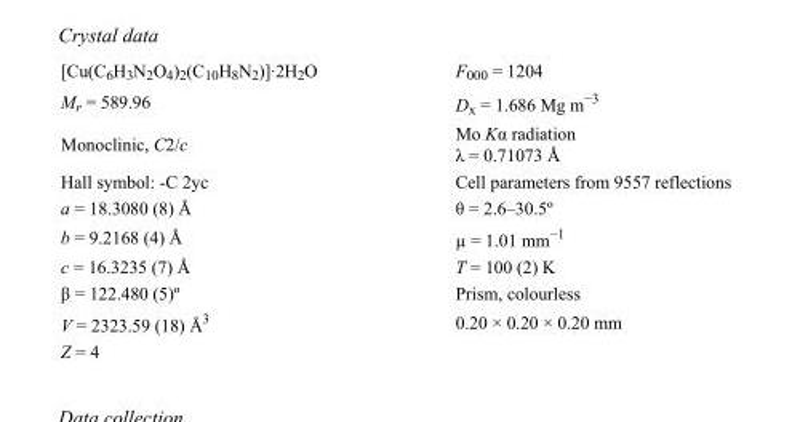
<table><tbody><tr><td>[Cu(C<sub>6</sub>H<sub>3</sub>N<sub>2</sub>O<sub>4</sub>)<sub>2</sub>(C<sub>10</sub>H<sub>8</sub>N<sub>2</sub>)]·2H<sub>2</sub>O</td><td>F<sub>000</sub> = 1204</td></tr><tr><td>M<sub>r</sub> = 589.96</td><td>D<sub>x</sub> = 1.686 Mg m<sup>−3</sup></td></tr><tr><td>Monoclinic, C2/c</td><td>Mo Kα radiation λ = 0.71073 Å</td></tr><tr><td>Hall symbol: -C 2yc</td><td>Cell parameters from 9557 reflections</td></tr><tr><td>a = 18.3080 (8) Å</td><td>θ = 2.6–30.5º</td></tr><tr><td>b = 9.2168 (4) Å</td><td>µ = 1.01 mm<sup>−1</sup></td></tr><tr><td>c = 16.3235 (7) Å</td><td>T = 100 (2) K</td></tr><tr><td>β = 122.480 (5)º</td><td>Prism, colourless</td></tr><tr><td>V = 2323.59 (18) Å<sup>3</sup></td><td>0.20 × 0.20 × 0.20 mm</td></tr><tr><td>Z = 4</td><td></td></tr></tbody></table>